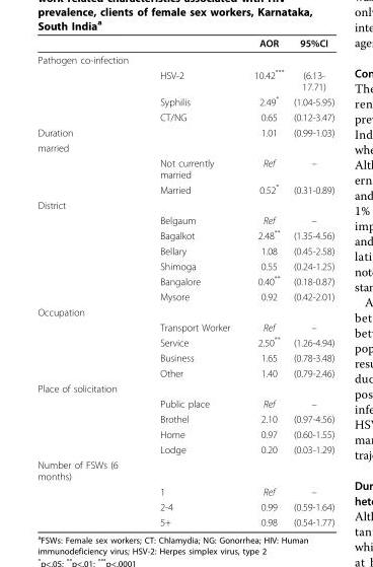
<table><thead><tr><td></td><td></td><td>AOR</td><td>95%CI</td></tr></thead><tbody><tr><td colspan="4">Pathogen co-infection</td></tr><tr><td></td><td>HSV-2</td><td>10.42***</td><td>(6.13- 17.71)</td></tr><tr><td></td><td>Syphilis</td><td>2.49*</td><td>(1.04-5.95)</td></tr><tr><td></td><td>CT/NG</td><td>0.65</td><td>(0.12-3.47)</td></tr><tr><td>Duration</td><td></td><td>1.01</td><td>(0.99-1.03)</td></tr><tr><td colspan="4">married</td></tr><tr><td></td><td>Not currently married</td><td>Ref</td><td>–</td></tr><tr><td></td><td>Married</td><td>0.52*</td><td>(0.31-0.89)</td></tr><tr><td colspan="4">District</td></tr><tr><td></td><td>Belgaum</td><td>Ref</td><td>–</td></tr><tr><td></td><td>Bagalkot</td><td>2.48**</td><td>(1.35-4.56)</td></tr><tr><td></td><td>Bellary</td><td>1.08</td><td>(0.45-2.58)</td></tr><tr><td></td><td>Shimoga</td><td>0.55</td><td>(0.24-1.25)</td></tr><tr><td></td><td>Bangalore</td><td>0.40**</td><td>(0.18-0.87)</td></tr><tr><td></td><td>Mysore</td><td>0.92</td><td>(0.42-2.01)</td></tr><tr><td colspan="4">Occupation</td></tr><tr><td></td><td>Transport Worker</td><td>Ref</td><td>–</td></tr><tr><td></td><td>Service</td><td>2.50**</td><td>(1.26-4.94)</td></tr><tr><td></td><td>Business</td><td>1.65</td><td>(0.78-3.48)</td></tr><tr><td></td><td>Other</td><td>1.40</td><td>(0.79-2.46)</td></tr><tr><td colspan="4">Place of solicitation</td></tr><tr><td></td><td>Public place</td><td>Ref</td><td>–</td></tr><tr><td></td><td>Brothel</td><td>2.10</td><td>(0.97-4.56)</td></tr><tr><td></td><td>Home</td><td>0.97</td><td>(0.60-1.55)</td></tr><tr><td></td><td>Lodge</td><td>0.20</td><td>(0.03-1.29)</td></tr><tr><td colspan="4">Number of FSWs (6 months)</td></tr><tr><td></td><td>1</td><td>Ref</td><td>–</td></tr><tr><td></td><td>2-4</td><td>0.99</td><td>(0.59-1.64)</td></tr><tr><td></td><td>5+</td><td>0.98</td><td>(0.54-1.77)</td></tr></tbody></table>